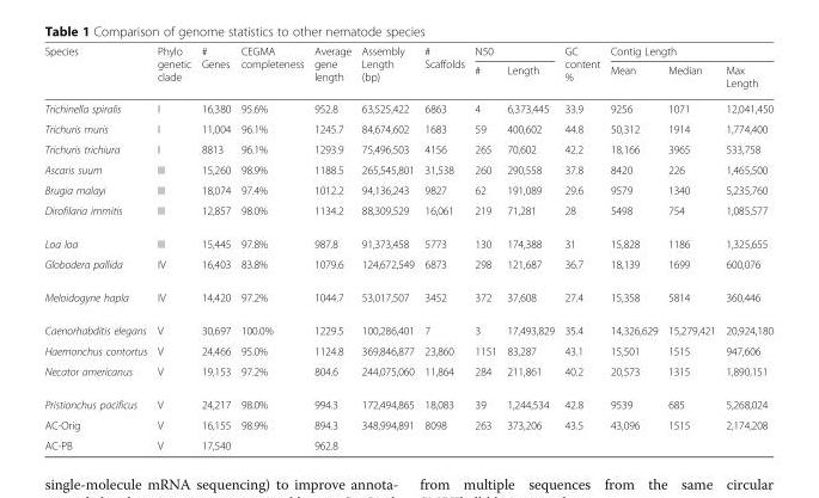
<table><thead><tr><td rowspan="2">Species</td><td rowspan="2">Phylo genetic clade</td><td rowspan="2"># Genes</td><td rowspan="2">CEGMA completeness</td><td rowspan="2">Average gene length</td><td rowspan="2">Assembly Length (bp)</td><td rowspan="2"># Scaffolds</td><td colspan="2">N50</td><td rowspan="2">GC content %</td><td colspan="3">Contig Length</td></tr><tr><td>#</td><td>Length</td><td>Mean</td><td>Median</td><td>Max Length</td></tr></thead><tbody><tr><td>Trichinella spiralis</td><td>I</td><td>16,380</td><td>95.6%</td><td>952.8</td><td>63,525,422</td><td>6863</td><td>4</td><td>6,373,445</td><td>33.9</td><td>9256</td><td>1071</td><td>12,041,450</td></tr><tr><td>Trichuris muris</td><td>I</td><td>11,004</td><td>96.1%</td><td>1245.7</td><td>84,674,602</td><td>1683</td><td>59</td><td>400,602</td><td>44.8</td><td>50,312</td><td>1914</td><td>1,774,400</td></tr><tr><td>Trichuris trichiura</td><td>I</td><td>8813</td><td>96.1%</td><td>1293.9</td><td>75,496,503</td><td>4156</td><td>265</td><td>70,602</td><td>42.2</td><td>18,166</td><td>3965</td><td>533,758</td></tr><tr><td>Ascaris suum</td><td>III</td><td>15,260</td><td>98.9%</td><td>1188.5</td><td>265,545,801</td><td>31,538</td><td>260</td><td>290,558</td><td>37.8</td><td>8420</td><td>226</td><td>1,465,500</td></tr><tr><td>Brugia malayi</td><td>III</td><td>18,074</td><td>97.4%</td><td>1012.2</td><td>94,136,243</td><td>9827</td><td>62</td><td>191,089</td><td>29.6</td><td>9579</td><td>1340</td><td>5,235,760</td></tr><tr><td>Dirofilaria immitis</td><td>III</td><td>12,857</td><td>98.0%</td><td>1134.2</td><td>88,309,529</td><td>16,061</td><td>219</td><td>71,281</td><td>28</td><td>5498</td><td>754</td><td>1,085,577</td></tr><tr><td>Loa loa</td><td>III</td><td>15,445</td><td>97.8%</td><td>987.8</td><td>91,373,458</td><td>5773</td><td>130</td><td>174,388</td><td>31</td><td>15,828</td><td>1186</td><td>1,325,655</td></tr><tr><td>Globodera pallida</td><td>IV</td><td>16,403</td><td>83.8%</td><td>1079.6</td><td>124,672,549</td><td>6873</td><td>298</td><td>121,687</td><td>36.7</td><td>18,139</td><td>1699</td><td>600,076</td></tr><tr><td>Meloidogyne hapla</td><td>IV</td><td>14,420</td><td>97.2%</td><td>1044.7</td><td>53,017,507</td><td>3452</td><td>372</td><td>37,608</td><td>27.4</td><td>15,358</td><td>5814</td><td>360,446</td></tr><tr><td>Caenorhabditis elegans</td><td>V</td><td>30,697</td><td>100.0%</td><td>1229.5</td><td>100,286,401</td><td>7</td><td>3</td><td>17,493,829</td><td>35.4</td><td>14,326,629</td><td>15,279,421</td><td>20,924,180</td></tr><tr><td>Haemonchus contortus</td><td>V</td><td>24,466</td><td>95.0%</td><td>1124.8</td><td>369,846,877</td><td>23,860</td><td>1151</td><td>83,287</td><td>43.1</td><td>15,501</td><td>1515</td><td>947,606</td></tr><tr><td>Necator americanus</td><td>V</td><td>19,153</td><td>97.2%</td><td>804.6</td><td>244,075,060</td><td>11,864</td><td>284</td><td>211,861</td><td>40.2</td><td>20,573</td><td>1315</td><td>1,890,151</td></tr><tr><td>Pristionchus pacificus</td><td>V</td><td>24,217</td><td>98.0%</td><td>994.3</td><td>172,494,865</td><td>18,083</td><td>39</td><td>1,244,534</td><td>42.8</td><td>9539</td><td>685</td><td>5,268,024</td></tr><tr><td>AC-Orig</td><td>V</td><td>16,155</td><td rowspan="2">98.9%</td><td>894.3</td><td rowspan="2">348,994,891</td><td rowspan="2">8098</td><td rowspan="2">263</td><td rowspan="2">373,206</td><td rowspan="2">43.5</td><td rowspan="2">43,096</td><td rowspan="2">1515</td><td rowspan="2">2,174,208</td></tr><tr><td>AC-PB</td><td>V</td><td>17,540</td><td>962.8</td></tr></tbody></table>